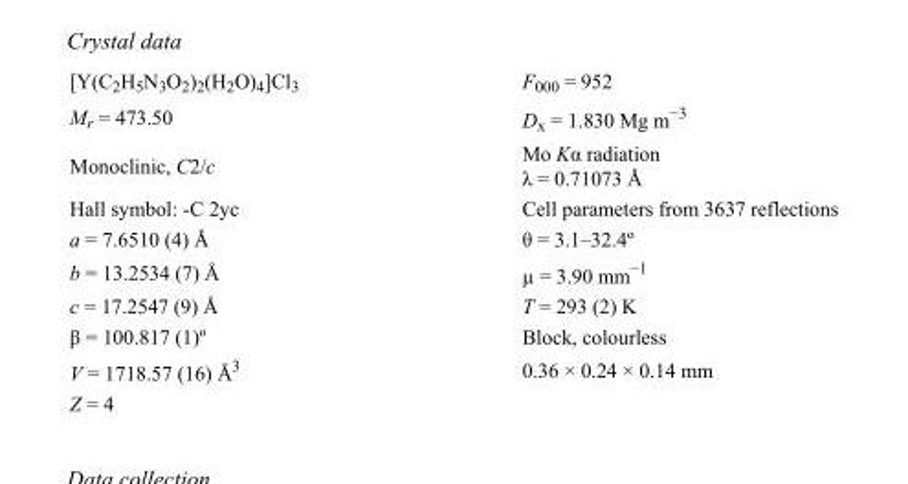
<table><tbody><tr><td>[Y(C<sub>2</sub>H<sub>5</sub>N<sub>3</sub>O<sub>2</sub>)<sub>2</sub>(H<sub>2</sub>O)<sub>4</sub>]Cl<sub>3</sub></td><td>F<sub>000</sub> = 952</td></tr><tr><td>M<sub>r</sub> = 473.50</td><td>D<sub>x</sub> = 1.830 Mg m<sup>−3</sup></td></tr><tr><td>Monoclinic, C2/c</td><td>Mo Kα radiation λ = 0.71073 Å</td></tr><tr><td>Hall symbol: -C 2yc</td><td>Cell parameters from 3637 reflections</td></tr><tr><td>a = 7.6510 (4) Å</td><td>θ = 3.1–32.4º</td></tr><tr><td>b = 13.2534 (7) Å</td><td>µ = 3.90 mm<sup>−1</sup></td></tr><tr><td>c = 17.2547 (9) Å</td><td>T = 293 (2) K</td></tr><tr><td>β = 100.817 (1)º</td><td>Block, colourless</td></tr><tr><td>V = 1718.57 (16) Å<sup>3</sup></td><td>0.36 × 0.24 × 0.14 mm</td></tr><tr><td>Z = 4</td><td></td></tr></tbody></table>